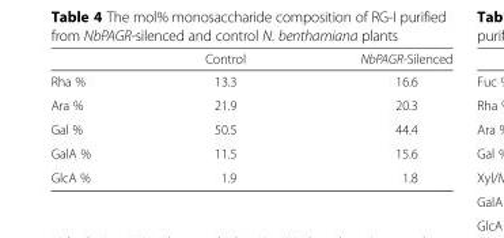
<table><thead><tr><td></td><td>Control</td><td>NbPAGR-Silenced</td></tr></thead><tbody><tr><td>Rha %</td><td>13.3</td><td>16.6</td></tr><tr><td>Ara %</td><td>21.9</td><td>20.3</td></tr><tr><td>Gal %</td><td>50.5</td><td>44.4</td></tr><tr><td>GalA %</td><td>11.5</td><td>15.6</td></tr><tr><td>GlcA %</td><td>1.9</td><td>1.8</td></tr></tbody></table>